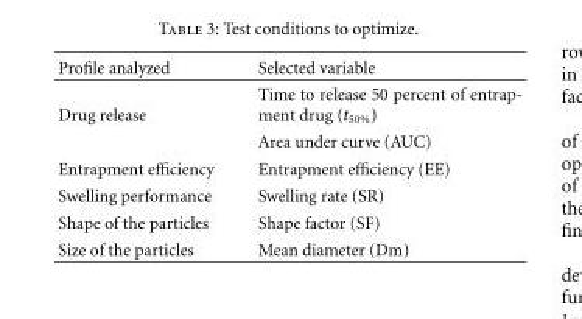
<table><thead><tr><td>Profile analyzed</td><td>Selected variable</td></tr></thead><tbody><tr><td rowspan="2">Drug release</td><td>Time to release 50 percent of entrap- ment drug (t50%)</td></tr><tr><td>Area under curve (AUC)</td></tr><tr><td>Entrapment efficiency</td><td>Entrapment efficiency (EE)</td></tr><tr><td>Swelling performance</td><td>Swelling rate (SR)</td></tr><tr><td>Shape of the particles</td><td>Shape factor (SF)</td></tr><tr><td>Size of the particles</td><td>Mean diameter (Dm)</td></tr></tbody></table>